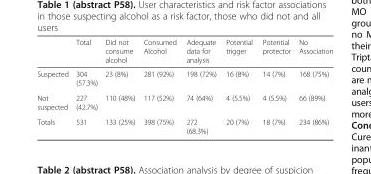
<table><thead><tr><td></td><td>Total</td><td>Did not consume alcohol</td><td>Consumed Alcohol</td><td>Adequate data for analysis</td><td>Potential trigger</td><td>Potential protector</td><td>No Association</td></tr></thead><tbody><tr><td>Suspected</td><td>304 (57.3%)</td><td>23 (8%)</td><td>281 (92%)</td><td>198 (72%)</td><td>16 (8%)</td><td>14 (7%)</td><td>168 (75%)</td></tr><tr><td>Not suspected</td><td>227 (42.7%)</td><td>110 (48%)</td><td>117 (52%)</td><td>74 (64%)</td><td>4 (5.5%)</td><td>4 (5.5%)</td><td>66 (89%)</td></tr><tr><td>Totals</td><td>531</td><td>133 (25%)</td><td>398 (75%)</td><td>272 (68.3%)</td><td>20 (7%)</td><td>18 (7%)</td><td>234 (86%)</td></tr></tbody></table>